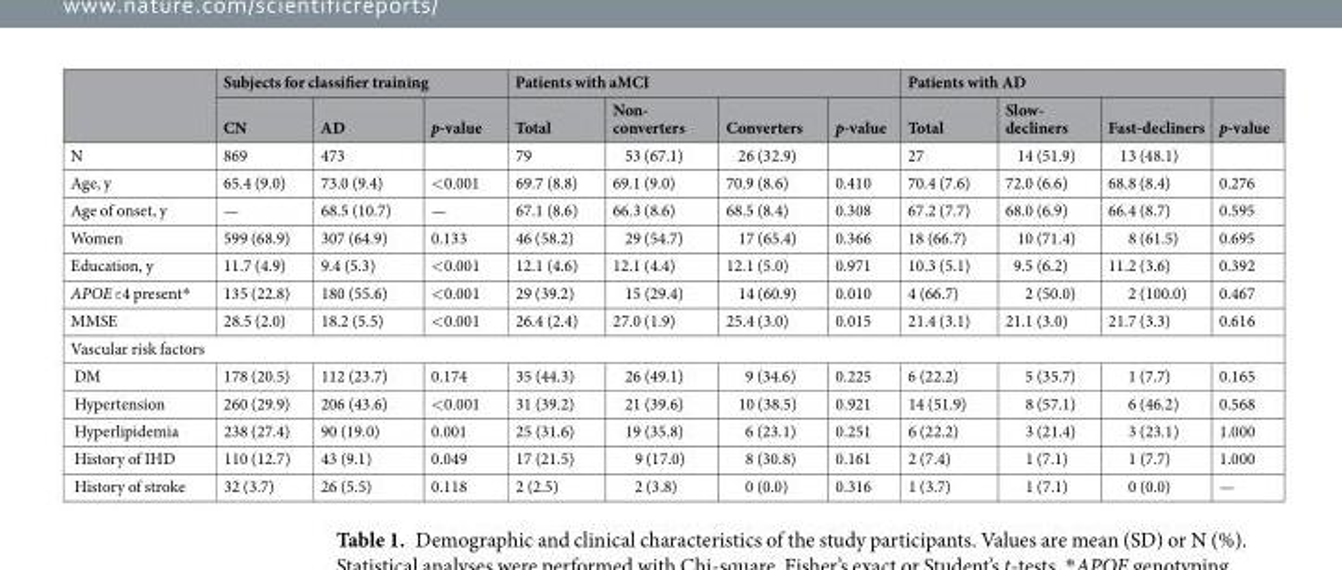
<table><thead><tr><td rowspan="2"></td><td colspan="3">Subjects for classifier training</td><td colspan="4">Patients with aMCI</td><td colspan="4">Patients with AD</td></tr><tr><td>CN</td><td>AD</td><td>p-value</td><td>Total</td><td>Non- converters</td><td>Converters</td><td>p-value</td><td>Total</td><td>Slow- decliners</td><td>Fast-decliners</td><td>p-value</td></tr></thead><tbody><tr><td>N</td><td>869</td><td>473</td><td></td><td>79</td><td>53 (67.1)</td><td>26 (32.9)</td><td></td><td>27</td><td>14 (51.9)</td><td>13 (48.1)</td><td></td></tr><tr><td>Age, y</td><td>65.4 (9.0)</td><td>73.0 (9.4)</td><td>&lt;0.001</td><td>69.7 (8.8)</td><td>69.1 (9.0)</td><td>70.9 (8.6)</td><td>0.410</td><td>70.4 (7.6)</td><td>72.0 (6.6)</td><td>68.8 (8.4)</td><td>0.276</td></tr><tr><td>Age of onset, y</td><td>—</td><td>68.5 (10.7)</td><td>—</td><td>67.1 (8.6)</td><td>66.3 (8.6)</td><td>68.5 (8.4)</td><td>0.308</td><td>67.2 (7.7)</td><td>68.0 (6.9)</td><td>66.4 (8.7)</td><td>0.595</td></tr><tr><td>Women</td><td>599 (68.9)</td><td>307 (64.9)</td><td>0.133</td><td>46 (58.2)</td><td>29 (54.7)</td><td>17 (65.4)</td><td>0.366</td><td>18 (66.7)</td><td>10 (71.4)</td><td>8 (61.5)</td><td>0.695</td></tr><tr><td>Education, y</td><td>11.7 (4.9)</td><td>9.4 (5.3)</td><td>&lt;0.001</td><td>12.1 (4.6)</td><td>12.1 (4.4)</td><td>12.1 (5.0)</td><td>0.971</td><td>10.3 (5.1)</td><td>9.5 (6.2)</td><td>11.2 (3.6)</td><td>0.392</td></tr><tr><td>APOE ε4 present*</td><td>135 (22.8)</td><td>180 (55.6)</td><td>&lt;0.001</td><td>29 (39.2)</td><td>15 (29.4)</td><td>14 (60.9)</td><td>0.010</td><td>4 (66.7)</td><td>2 (50.0)</td><td>2 (100.0)</td><td>0.467</td></tr><tr><td>MMSE</td><td>28.5 (2.0)</td><td>18.2 (5.5)</td><td>&lt;0.001</td><td>26.4 (2.4)</td><td>27.0 (1.9)</td><td>25.4 (3.0)</td><td>0.015</td><td>21.4 (3.1)</td><td>21.1 (3.0)</td><td>21.7 (3.3)</td><td>0.616</td></tr><tr><td colspan="12">Vascular risk factors</td></tr><tr><td>DM</td><td>178 (20.5)</td><td>112 (23.7)</td><td>0.174</td><td>35 (44.3)</td><td>26 (49.1)</td><td>9 (34.6)</td><td>0.225</td><td>6 (22.2)</td><td>5 (35.7)</td><td>1 (7.7)</td><td>0.165</td></tr><tr><td>Hypertension</td><td>260 (29.9)</td><td>206 (43.6)</td><td>&lt;0.001</td><td>31 (39.2)</td><td>21 (39.6)</td><td>10 (38.5)</td><td>0.921</td><td>14 (51.9)</td><td>8 (57.1)</td><td>6 (46.2)</td><td>0.568</td></tr><tr><td>Hyperlipidemia</td><td>238 (27.4)</td><td>90 (19.0)</td><td>0.001</td><td>25 (31.6)</td><td>19 (35.8)</td><td>6 (23.1)</td><td>0.251</td><td>6 (22.2)</td><td>3 (21.4)</td><td>3 (23.1)</td><td>1.000</td></tr><tr><td>History of IHD</td><td>110 (12.7)</td><td>43 (9.1)</td><td>0.049</td><td>17 (21.5)</td><td>9 (17.0)</td><td>8 (30.8)</td><td>0.161</td><td>2 (7.4)</td><td>1 (7.1)</td><td>1 (7.7)</td><td>1.000</td></tr><tr><td>History of stroke</td><td>32 (3.7)</td><td>26 (5.5)</td><td>0.118</td><td>2 (2.5)</td><td>2 (3.8)</td><td>0 (0.0)</td><td>0.316</td><td>1 (3.7)</td><td>1 (7.1)</td><td>0 (0.0)</td><td>—</td></tr></tbody></table>